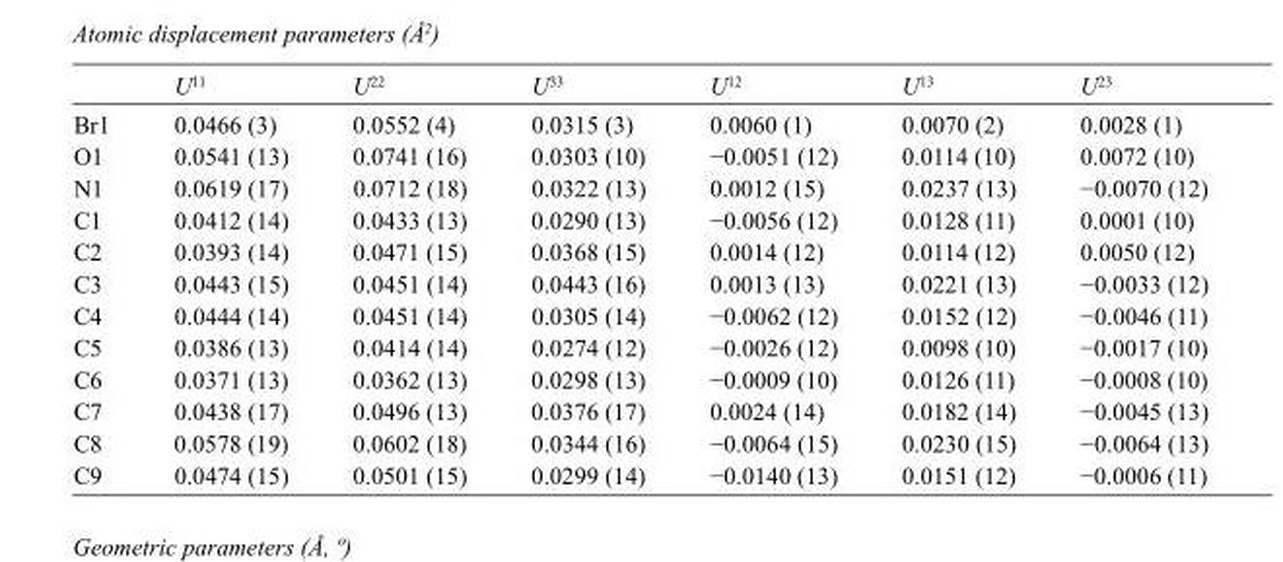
<table><thead><tr><td></td><td>U<sup>11</sup></td><td>U<sup>22</sup></td><td>U<sup>33</sup></td><td>U<sup>12</sup></td><td>U<sup>13</sup></td><td>U<sup>23</sup></td></tr></thead><tbody><tr><td>Br1</td><td>0.0466 (3)</td><td>0.0552 (4)</td><td>0.0315 (3)</td><td>0.0060 (1)</td><td>0.0070 (2)</td><td>0.0028 (1)</td></tr><tr><td>O1</td><td>0.0541 (13)</td><td>0.0741 (16)</td><td>0.0303 (10)</td><td>−0.0051 (12)</td><td>0.0114 (10)</td><td>0.0072 (10)</td></tr><tr><td>N1</td><td>0.0619 (17)</td><td>0.0712 (18)</td><td>0.0322 (13)</td><td>0.0012 (15)</td><td>0.0237 (13)</td><td>−0.0070 (12)</td></tr><tr><td>C1</td><td>0.0412 (14)</td><td>0.0433 (13)</td><td>0.0290 (13)</td><td>−0.0056 (12)</td><td>0.0128 (11)</td><td>0.0001 (10)</td></tr><tr><td>C2</td><td>0.0393 (14)</td><td>0.0471 (15)</td><td>0.0368 (15)</td><td>0.0014 (12)</td><td>0.0114 (12)</td><td>0.0050 (12)</td></tr><tr><td>C3</td><td>0.0443 (15)</td><td>0.0451 (14)</td><td>0.0443 (16)</td><td>0.0013 (13)</td><td>0.0221 (13)</td><td>−0.0033 (12)</td></tr><tr><td>C4</td><td>0.0444 (14)</td><td>0.0451 (14)</td><td>0.0305 (14)</td><td>−0.0062 (12)</td><td>0.0152 (12)</td><td>−0.0046 (11)</td></tr><tr><td>C5</td><td>0.0386 (13)</td><td>0.0414 (14)</td><td>0.0274 (12)</td><td>−0.0026 (12)</td><td>0.0098 (10)</td><td>−0.0017 (10)</td></tr><tr><td>C6</td><td>0.0371 (13)</td><td>0.0362 (13)</td><td>0.0298 (13)</td><td>−0.0009 (10)</td><td>0.0126 (11)</td><td>−0.0008 (10)</td></tr><tr><td>C7</td><td>0.0438 (17)</td><td>0.0496 (13)</td><td>0.0376 (17)</td><td>0.0024 (14)</td><td>0.0182 (14)</td><td>−0.0045 (13)</td></tr><tr><td>C8</td><td>0.0578 (19)</td><td>0.0602 (18)</td><td>0.0344 (16)</td><td>−0.0064 (15)</td><td>0.0230 (15)</td><td>−0.0064 (13)</td></tr><tr><td>C9</td><td>0.0474 (15)</td><td>0.0501 (15)</td><td>0.0299 (14)</td><td>−0.0140 (13)</td><td>0.0151 (12)</td><td>−0.0006 (11)</td></tr></tbody></table>